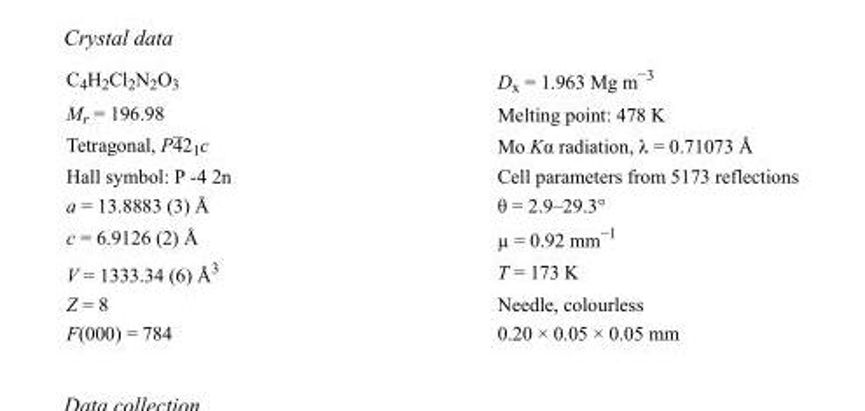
<table><tbody><tr><td>C<sub>4</sub>H<sub>2</sub>Cl<sub>2</sub>N<sub>2</sub>O<sub>3</sub></td><td>D<sub>x</sub> = 1.963 Mg m<sup>−3</sup></td></tr><tr><td>M<sub>r</sub> = 196.98</td><td>Melting point: 478 K</td></tr><tr><td>Tetragonal, P42<sub>1</sub>c</td><td>Mo Kα radiation, λ = 0.71073 Å</td></tr><tr><td>Hall symbol: P -4 2n</td><td>Cell parameters from 5173 reflections</td></tr><tr><td>a = 13.8883 (3) Å</td><td>θ = 2.9–29.3°</td></tr><tr><td>c = 6.9126 (2) Å</td><td>µ = 0.92 mm<sup>−1</sup></td></tr><tr><td>V = 1333.34 (6) Å<sup>3</sup></td><td>T = 173 K</td></tr><tr><td>Z = 8</td><td>Needle, colourless</td></tr><tr><td>F(000) = 784</td><td>0.20 × 0.05 × 0.05 mm</td></tr></tbody></table>